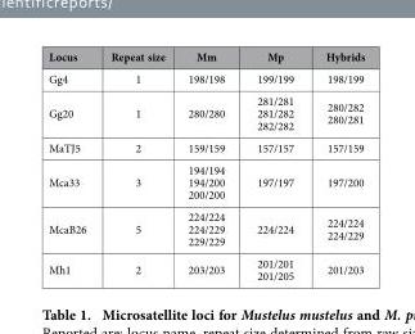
<table><thead><tr><td>Locus</td><td>Repeat size</td><td>Mm</td><td>Mp</td><td>Hybrids</td></tr></thead><tbody><tr><td>Gg4</td><td>1</td><td>198/198</td><td>199/199</td><td>198/199</td></tr><tr><td>Gg20</td><td>1</td><td>280/280</td><td>281/281 281/282 282/282</td><td>280/282 280/281</td></tr><tr><td>MaTJ5</td><td>2</td><td>159/159</td><td>157/157</td><td>157/159</td></tr><tr><td>Mca33</td><td>3</td><td>194/194 194/200 200/200</td><td>197/197</td><td>197/200</td></tr><tr><td>McaB26</td><td>5</td><td>224/224 224/229 229/229</td><td>224/224</td><td>224/224 224/229</td></tr><tr><td>Mh1</td><td>2</td><td>203/203</td><td>201/201 201/205</td><td>201/203</td></tr></tbody></table>